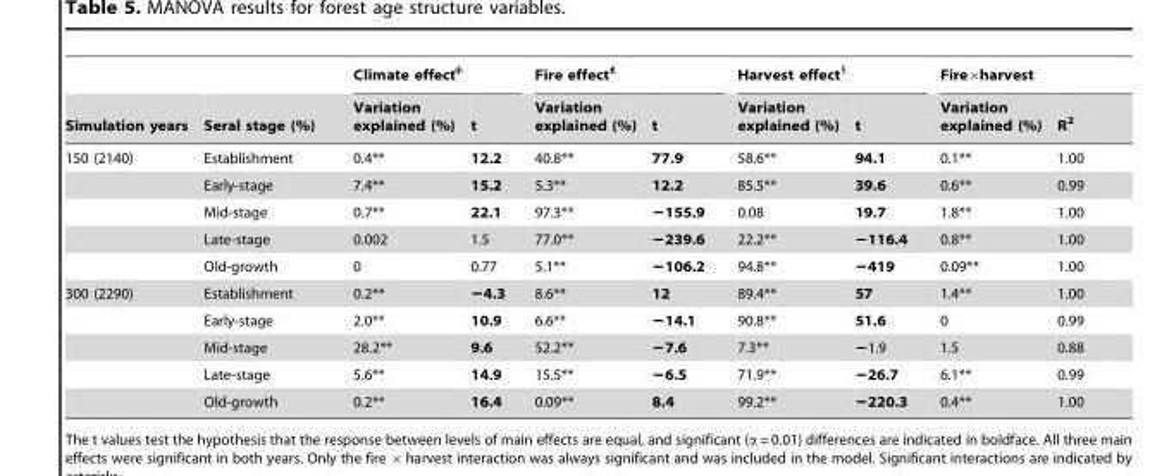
<table><thead><tr><td rowspan="2">Simulation years</td><td rowspan="2">Seral stage (%)</td><td colspan="2">Climate effect</td><td colspan="2">Fire effect£</td><td colspan="2">Harvest effect§</td><td colspan="2">Fire×harvest</td></tr><tr><td>Variation explained (%)</td><td>t</td><td>Variation explained (%)</td><td>t</td><td>Variation explained (%)</td><td>t</td><td>Variation explained (%)</td><td>R<sup>2</sup></td></tr></thead><tbody><tr><td rowspan="5">150 (2140)</td><td>Establishment</td><td>0.4**</td><td>12.2</td><td>40.8**</td><td>77.9</td><td>58.6**</td><td>94.1</td><td>0.1**</td><td>1.00</td></tr><tr><td>Early-stage</td><td>7.4**</td><td>15.2</td><td>5.3**</td><td>12.2</td><td>85.5**</td><td>39.6</td><td>0.6**</td><td>0.99</td></tr><tr><td>Mid-stage</td><td>0.7**</td><td>22.1</td><td>97.3**</td><td>−155.9</td><td>0.08</td><td>19.7</td><td>1.8**</td><td>1.00</td></tr><tr><td>Late-stage</td><td>0.002</td><td>1.5</td><td>77.0**</td><td>−239.6</td><td>22.2**</td><td>−116.4</td><td>0.8**</td><td>1.00</td></tr><tr><td>Old-growth</td><td>0</td><td>0.77</td><td>5.1**</td><td>−106.2</td><td>94.8**</td><td>−419</td><td>0.09**</td><td>1.00</td></tr><tr><td rowspan="5">300 (2290)</td><td>Establishment</td><td>0.2**</td><td>−4.3</td><td>8.6**</td><td>12</td><td>89.4**</td><td>57</td><td>1.4**</td><td>1.00</td></tr><tr><td>Early-stage</td><td>2.0**</td><td>10.9</td><td>6.6**</td><td>−14.1</td><td>90.8**</td><td>51.6</td><td>0</td><td>0.99</td></tr><tr><td>Mid-stage</td><td>28.2**</td><td>9.6</td><td>52.2**</td><td>−7.6</td><td>7.3**</td><td>−1.9</td><td>1.5</td><td>0.88</td></tr><tr><td>Late-stage</td><td>5.6**</td><td>14.9</td><td>15.5**</td><td>−6.5</td><td>71.9**</td><td>−26.7</td><td>6.1**</td><td>0.99</td></tr><tr><td>Old-growth</td><td>0.2**</td><td>16.4</td><td>0.09**</td><td>8.4</td><td>99.2**</td><td>−220.3</td><td>0.4**</td><td>1.00</td></tr></tbody></table>